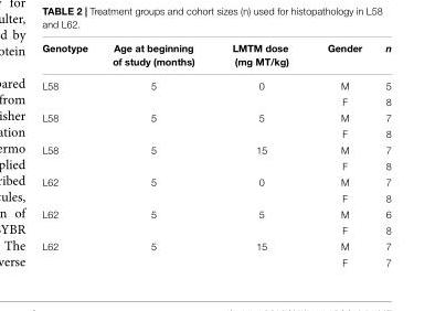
<table><thead><tr><td>Genotype</td><td>Age at beginning of study (months)</td><td>LMTM dose (mg MT/kg)</td><td>Gender</td><td>n</td></tr></thead><tbody><tr><td rowspan="2">L58</td><td>5</td><td>0</td><td>M</td><td>5</td></tr><tr><td></td><td></td><td>F</td><td>8</td></tr><tr><td rowspan="2">L58</td><td>5</td><td>5</td><td>M</td><td>7</td></tr><tr><td></td><td></td><td>F</td><td>8</td></tr><tr><td rowspan="2">L58</td><td>5</td><td>15</td><td>M</td><td>7</td></tr><tr><td></td><td></td><td>F</td><td>8</td></tr><tr><td rowspan="2">L62</td><td>5</td><td>0</td><td>M</td><td>7</td></tr><tr><td></td><td></td><td>F</td><td>8</td></tr><tr><td rowspan="2">L62</td><td>5</td><td>5</td><td>M</td><td>6</td></tr><tr><td></td><td></td><td>F</td><td>8</td></tr><tr><td rowspan="2">L62</td><td>5</td><td>15</td><td>M</td><td>7</td></tr><tr><td></td><td></td><td>F</td><td>7</td></tr></tbody></table>